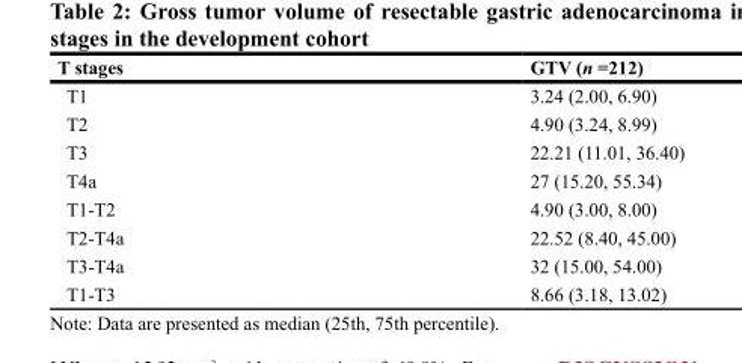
<table><thead><tr><td>T stages</td><td>GTV (n =212)</td></tr></thead><tbody><tr><td>T1</td><td>3.24 (2.00, 6.90)</td></tr><tr><td>T2</td><td>4.90 (3.24, 8.99)</td></tr><tr><td>T3</td><td>22.21 (11.01, 36.40)</td></tr><tr><td>T4a</td><td>27 (15.20, 55.34)</td></tr><tr><td>T1-T2</td><td>4.90 (3.00, 8.00)</td></tr><tr><td>T2-T4a</td><td>22.52 (8.40, 45.00)</td></tr><tr><td>T3-T4a</td><td>32 (15.00, 54.00)</td></tr><tr><td>T1-T3</td><td>8.66 (3.18, 13.02)</td></tr></tbody></table>